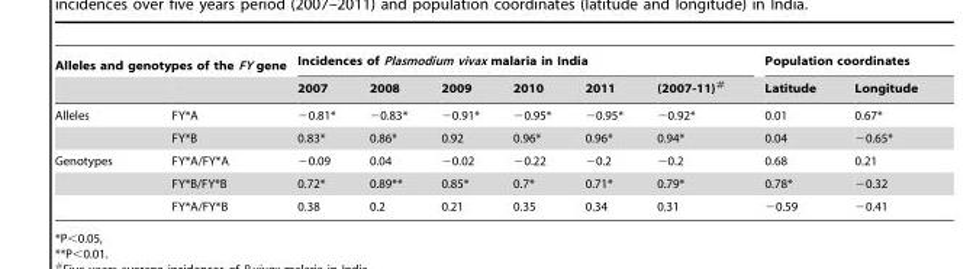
<table><thead><tr><td colspan="2">Alleles and genotypes of the FY gene</td><td colspan="6">Incidences of Plasmodium vivax malaria in India</td><td colspan="2">Population coordinates</td></tr><tr><td></td><td></td><td>2007</td><td>2008</td><td>2009</td><td>2010</td><td>2011</td><td>(2007-11)#</td><td>Latitude</td><td>Longitude</td></tr></thead><tbody><tr><td rowspan="2">Alleles</td><td>FY*A</td><td>−0.81*</td><td>−0.83*</td><td>−0.91*</td><td>−0.95*</td><td>−0.95*</td><td>−0.92*</td><td>0.01</td><td>0.67*</td></tr><tr><td>FY*B</td><td>0.83*</td><td>0.86*</td><td>0.92</td><td>0.96*</td><td>0.96*</td><td>0.94*</td><td>0.04</td><td>−0.65*</td></tr><tr><td rowspan="3">Genotypes</td><td>FY*A/FY*A</td><td>−0.09</td><td>0.04</td><td>−0.02</td><td>−0.22</td><td>−0.2</td><td>−0.2</td><td>0.68</td><td>0.21</td></tr><tr><td>FY*B/FY*B</td><td>0.72*</td><td>0.89**</td><td>0.85*</td><td>0.7*</td><td>0.71*</td><td>0.79*</td><td>0.78*</td><td>−0.32</td></tr><tr><td>FY*A/FY*B</td><td>0.38</td><td>0.2</td><td>0.21</td><td>0.35</td><td>0.34</td><td>0.31</td><td>−0.59</td><td>−0.41</td></tr></tbody></table>